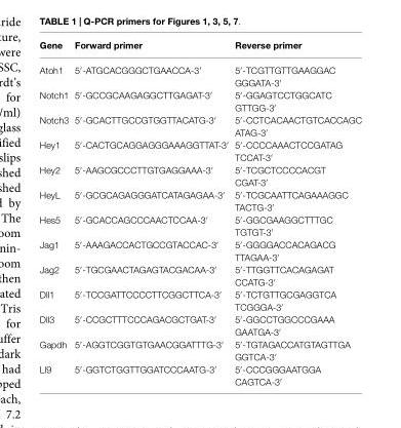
<table><thead><tr><td>Gene</td><td>Forward primer</td><td>Reverse primer</td></tr></thead><tbody><tr><td rowspan="2">Atoh1</td><td>5′-ATGCACGGGCTGAACCA-3’</td><td>5′-TCGTTGTTGAAGGAC</td></tr><tr><td></td><td>GGGATA-3′</td></tr><tr><td rowspan="2">Notch1</td><td>5′-GCCGCAAGAGGCTTGAGAT-3′</td><td>5′-GGAGTCCTGGCATC</td></tr><tr><td></td><td>GTTGG-3′</td></tr><tr><td rowspan="2">Notch3</td><td>5′-GCACTTGCCGTGGTTACATG-3′</td><td>5′-CCTCACAACTGTCACCAGC</td></tr><tr><td></td><td>ATAG-3′</td></tr><tr><td rowspan="2">Hey1</td><td>5′-CACTGCAGGAGGGAAAGGTTAT-3′</td><td>5′-CCCCAAACTCCGATAG</td></tr><tr><td></td><td>TCCAT-3′</td></tr><tr><td rowspan="2">Hey2</td><td>5′-AAGCGCCCTTGTGAGGAAA-3′</td><td>5′-TCGCTCCCCACGT</td></tr><tr><td></td><td>CGAT-3′</td></tr><tr><td rowspan="2">HeyL</td><td>5′-GCGCAGAGGGATCATAGAGAA-3′</td><td>5′-TCGCAATTCAGAAAGGC</td></tr><tr><td></td><td>TACTG-3′</td></tr><tr><td rowspan="2">Hes5</td><td>5′-GCACCAGCCCAACTCCAA-3′</td><td>5′-GGCGAAGGCTTTGC</td></tr><tr><td></td><td>TGTGT-3′</td></tr><tr><td rowspan="2">Jag1</td><td>5′-AAAGACCACTGCCGTACCAC-3′</td><td>5′-GGGGACCACAGACG</td></tr><tr><td></td><td>TTAGAA-3′</td></tr><tr><td rowspan="2">Jag2</td><td>5′-TGCGAACTAGAGTACGACAA-3′</td><td>5′-TTGGTTCACAGAGAT</td></tr><tr><td></td><td>CCATG-3′</td></tr><tr><td rowspan="2">Dll1</td><td>5′-TCCGATTCCCCTTCGGCTTCA-3′</td><td>5′-TCTGTTGCGAGGTCA</td></tr><tr><td></td><td>TCGGGA-3′</td></tr><tr><td rowspan="2">Dll3</td><td>5′-CCGCTTTCCCAGACGCTGAT-3′</td><td>5′-GGCCTGGCCCGAAA</td></tr><tr><td></td><td>GAATGA-3′</td></tr><tr><td rowspan="2">Gapdh</td><td>5′-AGGTCGGTGTGAACGGATTTG-3′</td><td>5′-TGTAGACCATGTAGTTGA</td></tr><tr><td></td><td>GGTCA-3′</td></tr><tr><td rowspan="2">Ll9</td><td>5′-GGTCTGGTTGGATCCCAATG-3′</td><td>5′-CCCGGGAATGGA</td></tr><tr><td></td><td>CAGTCA-3′</td></tr></tbody></table>